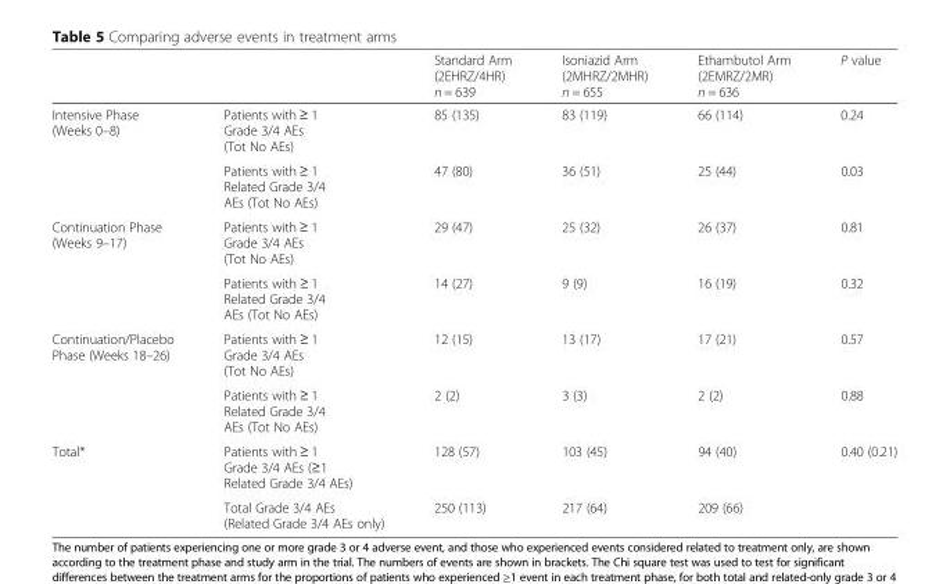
<table><thead><tr><td></td><td></td><td>Standard Arm (2EHRZ/4HR) n = 639</td><td>Isoniazid Arm (2MHRZ/2MHR) n = 655</td><td>Ethambutol Arm (2EMRZ/2MR) n = 636</td><td>P value</td></tr></thead><tbody><tr><td rowspan="2">Intensive Phase (Weeks 0–8)</td><td>Patients with ≥ 1 Grade 3/4 AEs (Tot No AEs)</td><td>85 (135)</td><td>83 (119)</td><td>66 (114)</td><td>0.24</td></tr><tr><td>Patients with ≥ 1 Related Grade 3/4 AEs (Tot No AEs)</td><td>47 (80)</td><td>36 (51)</td><td>25 (44)</td><td>0.03</td></tr><tr><td rowspan="2">Continuation Phase (Weeks 9–17)</td><td>Patients with ≥ 1 Grade 3/4 AEs (Tot No AEs)</td><td>29 (47)</td><td>25 (32)</td><td>26 (37)</td><td>0.81</td></tr><tr><td>Patients with ≥ 1 Related Grade 3/4 AEs (Tot No AEs)</td><td>14 (27)</td><td>9 (9)</td><td>16 (19)</td><td>0.32</td></tr><tr><td rowspan="2">Continuation/Placebo Phase (Weeks 18–26)</td><td>Patients with ≥ 1 Grade 3/4 AEs (Tot No AEs)</td><td>12 (15)</td><td>13 (17)</td><td>17 (21)</td><td>0.57</td></tr><tr><td>Patients with ≥ 1 Related Grade 3/4 AEs (Tot No AEs)</td><td>2 (2)</td><td>3 (3)</td><td>2 (2)</td><td>0.88</td></tr><tr><td rowspan="2">Total*</td><td>Patients with ≥ 1 Grade 3/4 AEs (≥1 Related Grade 3/4 AEs)</td><td>128 (57)</td><td>103 (45)</td><td>94 (40)</td><td>0.40 (0.21)</td></tr><tr><td>Total Grade 3/4 AEs (Related Grade 3/4 AEs only)</td><td>250 (113)</td><td>217 (64)</td><td>209 (66)</td><td></td></tr></tbody></table>